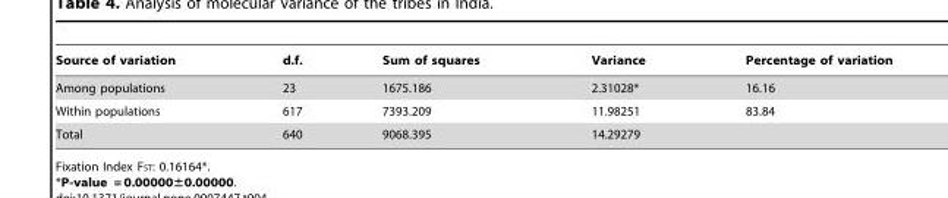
<table><thead><tr><td>Source of variation</td><td>d.f.</td><td>Sum of squares</td><td>Variance</td><td>Percentage of variation</td></tr></thead><tbody><tr><td>Among populations</td><td>23</td><td>1675.186</td><td>2.31028*</td><td>16.16</td></tr><tr><td>Within populations</td><td>617</td><td>7393.209</td><td>11.98251</td><td>83.84</td></tr><tr><td>Total</td><td>640</td><td>9068.395</td><td>14.29279</td><td></td></tr></tbody></table>